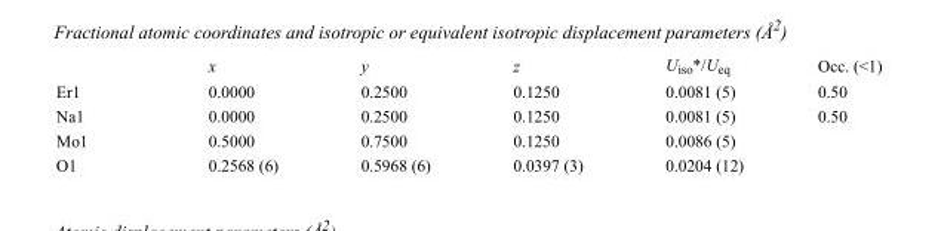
<table><thead><tr><td></td><td>x</td><td>y</td><td>z</td><td>U<sub>iso</sub>*/U<sub>eq</sub></td><td>Occ. (&lt;1)</td></tr></thead><tbody><tr><td>Er1</td><td>0.0000</td><td>0.2500</td><td>0.1250</td><td>0.0081 (5)</td><td>0.50</td></tr><tr><td>Na1</td><td>0.0000</td><td>0.2500</td><td>0.1250</td><td>0.0081 (5)</td><td>0.50</td></tr><tr><td>Mo1</td><td>0.5000</td><td>0.7500</td><td>0.1250</td><td>0.0086 (5)</td><td></td></tr><tr><td>O1</td><td>0.2568 (6)</td><td>0.5968 (6)</td><td>0.0397 (3)</td><td>0.0204 (12)</td><td></td></tr></tbody></table>